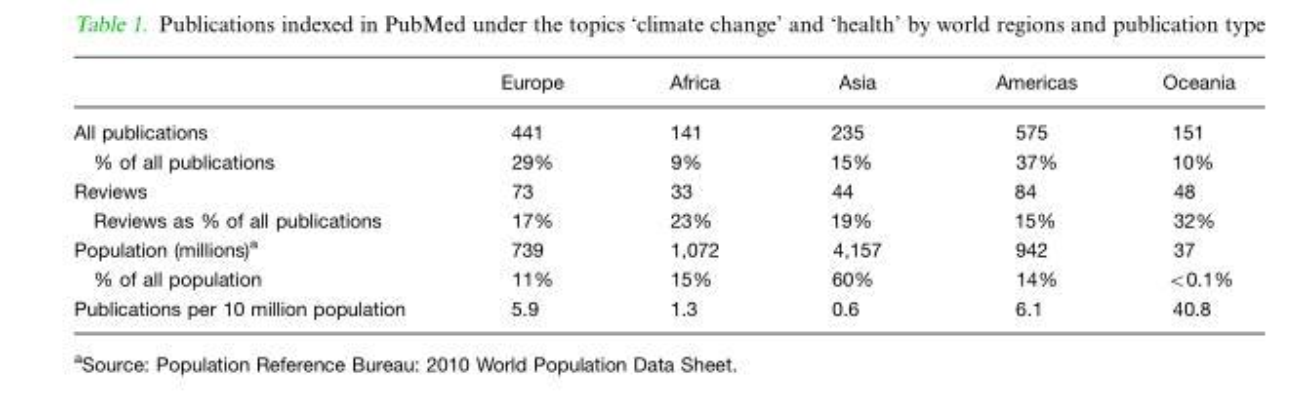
<table><thead><tr><td></td><td>Europe</td><td>Africa</td><td>Asia</td><td>Americas</td><td>Oceania</td></tr></thead><tbody><tr><td>All publications</td><td>441</td><td>141</td><td>235</td><td>575</td><td>151</td></tr><tr><td>% of all publications</td><td>29%</td><td>9%</td><td>15%</td><td>37%</td><td>10%</td></tr><tr><td>Reviews</td><td>73</td><td>33</td><td>44</td><td>84</td><td>48</td></tr><tr><td>Reviews as % of all publications</td><td>17%</td><td>23%</td><td>19%</td><td>15%</td><td>32%</td></tr><tr><td>Population (millions)<sup>a</sup></td><td>739</td><td>1,072</td><td>4,157</td><td>942</td><td>37</td></tr><tr><td>% of all population</td><td>11%</td><td>15%</td><td>60%</td><td>14%</td><td>&lt;0.1%</td></tr><tr><td>Publications per 10 million population</td><td>5.9</td><td>1.3</td><td>0.6</td><td>6.1</td><td>40.8</td></tr></tbody></table>